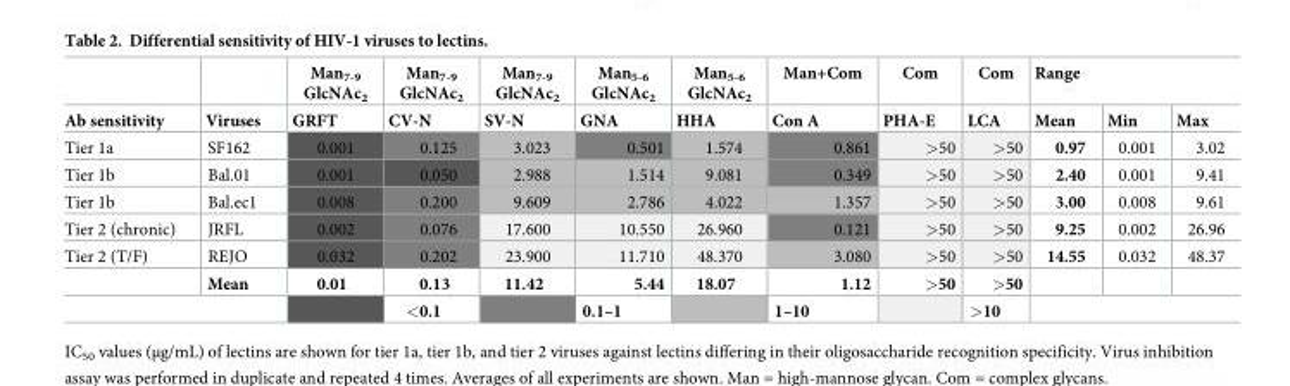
<table><thead><tr><td rowspan="2">Ab sensitivity</td><td rowspan="2">Viruses</td><td rowspan="2">Man<sub>7-9</sub> GlcNAc<sub>2</sub> GRFT</td><td rowspan="2">Man<sub>7-9</sub> GlcNAc<sub>2</sub> CV-N</td><td rowspan="2">Man<sub>7-9</sub> GlcNAc<sub>2</sub> SV-N</td><td rowspan="2">Man<sub>5-6</sub> GlcNAc<sub>2</sub> GNA</td><td rowspan="2">Man<sub>5-6</sub> GlcNAc<sub>2</sub> HHA</td><td rowspan="2">Man+Com Con A</td><td rowspan="2">Com PHA-E</td><td rowspan="2">Com LCA</td><td colspan="3">Range</td></tr><tr><td>Mean</td><td>Min</td><td>Max</td></tr></thead><tbody><tr><td>Tier 1a</td><td>SF162</td><td>0.001</td><td>0.125</td><td>3.023</td><td>0.501</td><td>1.574</td><td>0.861</td><td>&gt;50</td><td>&gt;50</td><td>0.97</td><td>0.001</td><td>3.02</td></tr><tr><td>Tier 1b</td><td>Bal.01</td><td>0.001</td><td>0.050</td><td>2.988</td><td>1.514</td><td>9.081</td><td>0.349</td><td>&gt;50</td><td>&gt;50</td><td>2.40</td><td>0.001</td><td>9.41</td></tr><tr><td>Tier 1b</td><td>Bal.ec1</td><td>0.008</td><td>0.200</td><td>9.609</td><td>2.786</td><td>4.022</td><td>1.357</td><td>&gt;50</td><td>&gt;50</td><td>3.00</td><td>0.008</td><td>9.61</td></tr><tr><td>Tier 2 (chronic)</td><td>JRFL</td><td>0.002</td><td>0.076</td><td>17.600</td><td>10.550</td><td>26.960</td><td>0.121</td><td>&gt;50</td><td>&gt;50</td><td>9.25</td><td>0.002</td><td>26.96</td></tr><tr><td rowspan="2">Tier 2 (T/F)</td><td>REJO</td><td>0.032</td><td>0.202</td><td>23.900</td><td>11.710</td><td>48.370</td><td>3.080</td><td>&gt;50</td><td>&gt;50</td><td>14.55</td><td>0.032</td><td>48.37</td></tr><tr><td>Mean</td><td>0.01</td><td>0.13</td><td>11.42</td><td>5.44</td><td>18.07</td><td>1.12</td><td>&gt;50</td><td>&gt;50</td><td></td><td></td><td></td></tr><tr><td colspan="2"></td><td></td><td>&lt;0.1</td><td></td><td>0.1–1</td><td></td><td>1–10</td><td></td><td>&gt;10</td><td colspan="3"></td></tr></tbody></table>